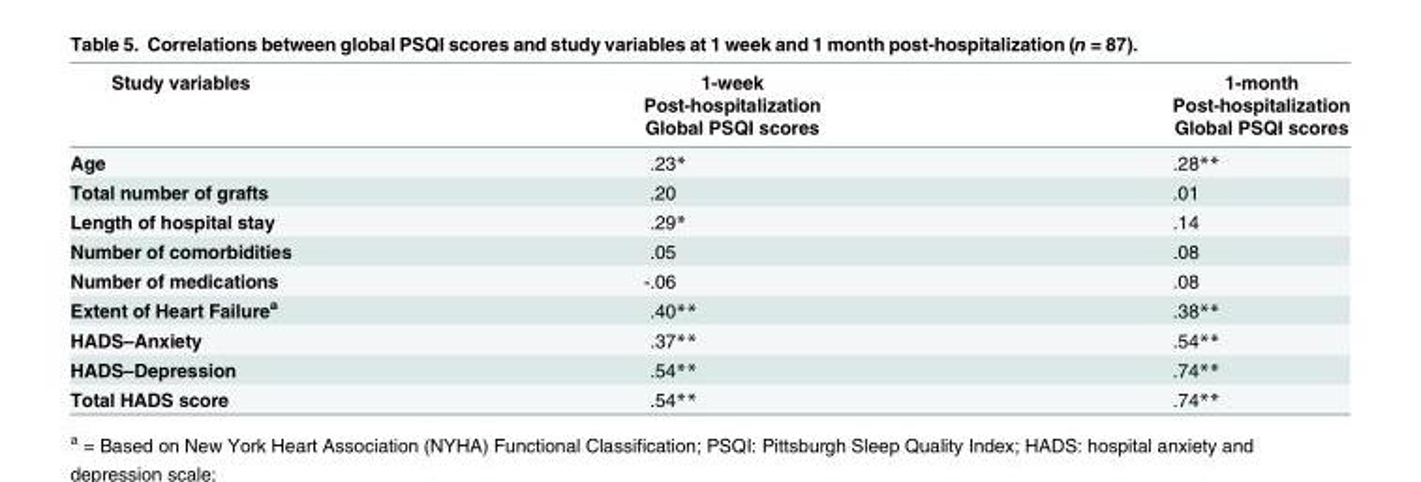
<table><thead><tr><td rowspan="3">Study variables</td><td rowspan="3">1-week Post-hospitalization Global PSQI scores</td><td rowspan="3">1-month Post-hospitalization Global PSQI scores</td></tr><tr></tr><tr></tr></thead><tbody><tr><td>Age</td><td>.23*</td><td>.28**</td></tr><tr><td>Total number of grafts</td><td>.20</td><td>.01</td></tr><tr><td>Length of hospital stay</td><td>.29*</td><td>.14</td></tr><tr><td>Number of comorbidities</td><td>.05</td><td>.08</td></tr><tr><td>Number of medications</td><td>-.06</td><td>.08</td></tr><tr><td>Extent of Heart Failure<sup>a</sup></td><td>.40**</td><td>.38**</td></tr><tr><td>HADS–Anxiety</td><td>.37**</td><td>.54**</td></tr><tr><td>HADS–Depression</td><td>.54**</td><td>.74**</td></tr><tr><td>Total HADS score</td><td>.54**</td><td>.74**</td></tr></tbody></table>